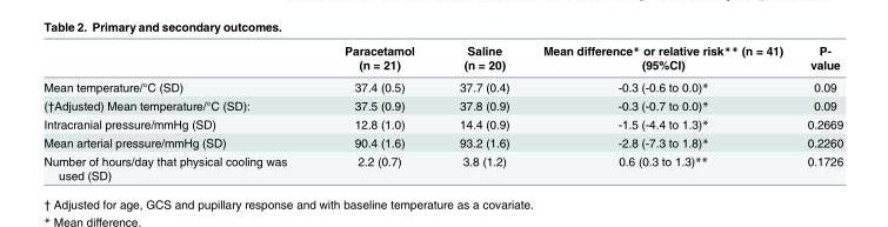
<table><thead><tr><td></td><td>Paracetamol (n = 21)</td><td>Saline (n = 20)</td><td>Mean difference* or relative risk** (n = 41) (95%CI)</td><td>P- value</td></tr></thead><tbody><tr><td>Mean temperature/°C (SD)</td><td>37.4 (0.5)</td><td>37.7 (0.4)</td><td>-0.3 (-0.6 to 0.0)*</td><td>0.09</td></tr><tr><td>(†Adjusted) Mean temperature/°C (SD):</td><td>37.5 (0.9)</td><td>37.8 (0.9)</td><td>-0.3 (-0.7 to 0.0)*</td><td>0.09</td></tr><tr><td>Intracranial pressure/mmHg (SD)</td><td>12.8 (1.0)</td><td>14.4 (0.9)</td><td>-1.5 (-4.4 to 1.3)*</td><td>0.2669</td></tr><tr><td>Mean arterial pressure/mmHg (SD)</td><td>90.4 (1.6)</td><td>93.2 (1.6)</td><td>-2.8 (-7.3 to 1.8)*</td><td>0.2260</td></tr><tr><td>Number of hours/day that physical cooling was used (SD)</td><td>2.2 (0.7)</td><td>3.8 (1.2)</td><td>0.6 (0.3 to 1.3)**</td><td>0.1726</td></tr></tbody></table>